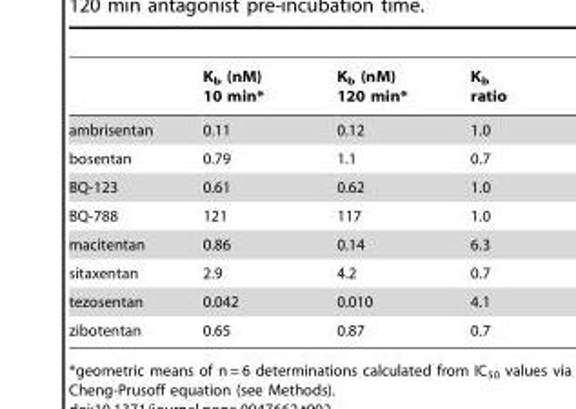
<table><thead><tr><td></td><td>K<sub>b</sub> (nM) 10 min*</td><td>K<sub>b</sub> (nM) 120 min*</td><td>K<sub>b</sub> ratio</td></tr></thead><tbody><tr><td>ambrisentan</td><td>0.11</td><td>0.12</td><td>1.0</td></tr><tr><td>bosentan</td><td>0.79</td><td>1.1</td><td>0.7</td></tr><tr><td>BQ-123</td><td>0.61</td><td>0.62</td><td>1.0</td></tr><tr><td>BQ-788</td><td>121</td><td>117</td><td>1.0</td></tr><tr><td>macitentan</td><td>0.86</td><td>0.14</td><td>6.3</td></tr><tr><td>sitaxentan</td><td>2.9</td><td>4.2</td><td>0.7</td></tr><tr><td>tezosentan</td><td>0.042</td><td>0.010</td><td>4.1</td></tr><tr><td>zibotentan</td><td>0.65</td><td>0.87</td><td>0.7</td></tr></tbody></table>